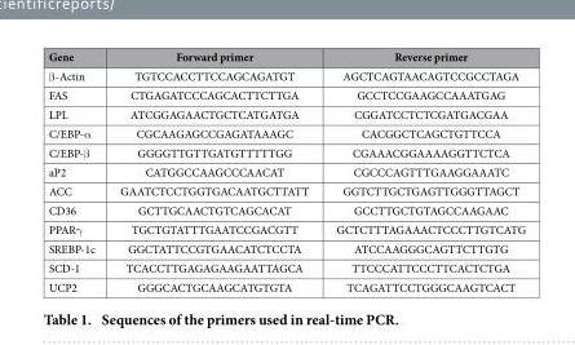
<table><thead><tr><td>Gene</td><td>Forward primer</td><td>Reverse primer</td></tr></thead><tbody><tr><td>β -Actin</td><td>TGTCCACCTTCCAGCAGATGT</td><td>AGCTCAGTAACAGTCCGCCTAGA</td></tr><tr><td>FAS</td><td>CTGAGATCCCAGCACTTCTTGA</td><td>GCCTCCGAAGCCAAATGAG</td></tr><tr><td>LPL</td><td>ATCGGAGAACTGCTCATGATGA</td><td>CGGATCCTCTCGATGACGAA</td></tr><tr><td>C/EBP-α</td><td>CGCAAGAGCCGAGATAAAGC</td><td>CACGGCTCAGCTGTTCCA</td></tr><tr><td>C/EBP-β</td><td>GGGGTTGTTGATGTTTTTGG</td><td>CGAAACGGAAAAGGTTCTCA</td></tr><tr><td>aP2</td><td>CATGGCCAAGCCCAACAT</td><td>CGCCCAGTTTGAAGGAAATC</td></tr><tr><td>ACC</td><td>GAATCTCCTGGTGACAATGCTTATT</td><td>GGTCTTGCTGAGTTGGGTTAGCT</td></tr><tr><td>CD36</td><td>GCTTGCAACTGTCAGCACAT</td><td>GCCTTGCTGTAGCCAAGAAC</td></tr><tr><td>PPARγ</td><td>TGCTGTATTTGAATCCGACGTT</td><td>GCTCTTTAGAAACTCCCTTGTCATG</td></tr><tr><td>SREBP-1c</td><td>GGCTATTCCGTGAACATCTCCTA</td><td>ATCCAAGGGCAGTTCTTGTG</td></tr><tr><td>SCD-1</td><td>TCACCTTGAGAGAAGAATTAGCA</td><td>TTCCCATTCCCTTCACTCTGA</td></tr><tr><td>UCP2</td><td>GGGCACTGCAAGCATGTGTA</td><td>TCAGATTCCTGGGCAAGTCACT</td></tr></tbody></table>